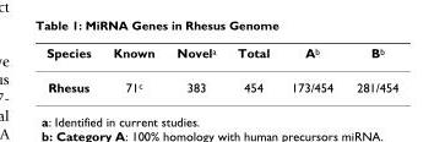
<table><thead><tr><td>Species</td><td>Known</td><td>Novel<sup>a</sup></td><td>Total</td><td>A<sup>b</sup></td><td>B<sup>b</sup></td></tr></thead><tbody><tr><td>Rhesus</td><td>71<sup>c</sup></td><td>383</td><td>454</td><td>173/454</td><td>281/454</td></tr></tbody></table>